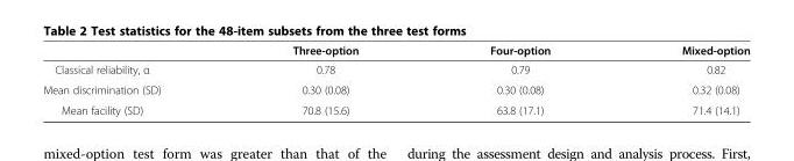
<table><thead><tr><td></td><td>Three-option</td><td>Four-option</td><td>Mixed-option</td></tr></thead><tbody><tr><td>Classical reliability, α</td><td>0.78</td><td>0.79</td><td>0.82</td></tr><tr><td>Mean discrimination (SD)</td><td>0.30 (0.08)</td><td>0.30 (0.08)</td><td>0.32 (0.08)</td></tr><tr><td>Mean facility (SD)</td><td>70.8 (15.6)</td><td>63.8 (17.1)</td><td>71.4 (14.1)</td></tr></tbody></table>